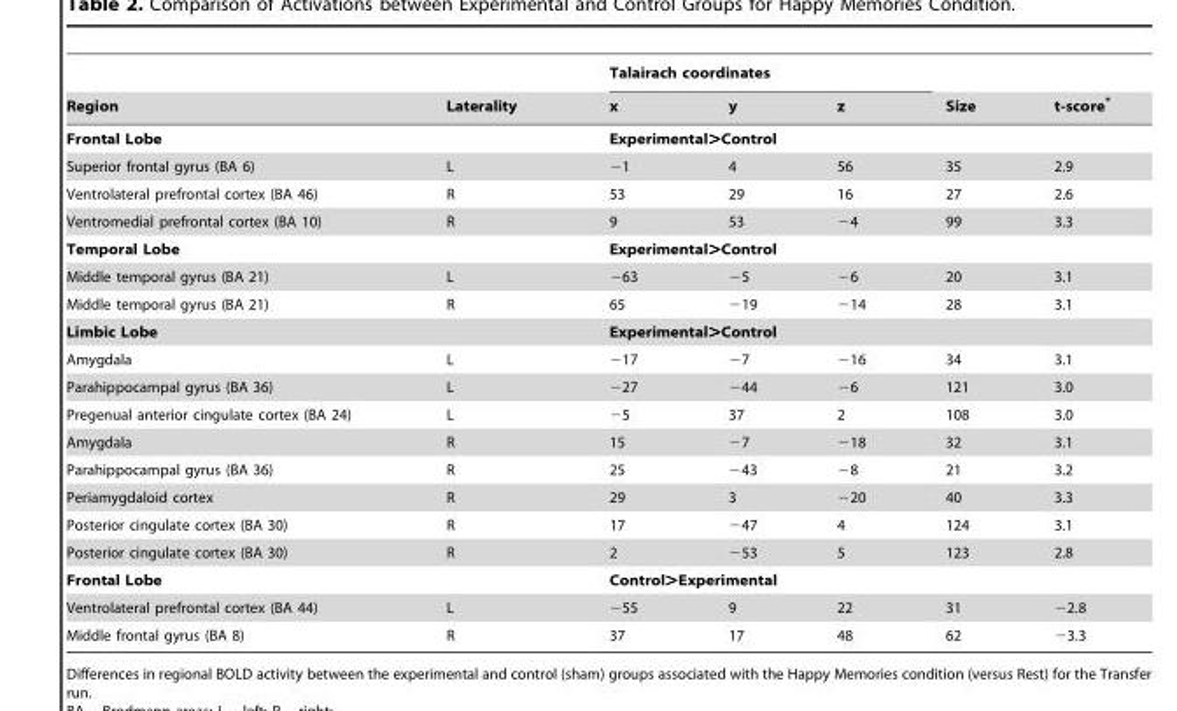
<table><thead><tr><td rowspan="2">Region</td><td rowspan="2">Laterality</td><td colspan="3">Talairach coordinates</td><td rowspan="2">Size</td><td rowspan="2">t-score*</td></tr><tr><td>x</td><td>y</td><td>z</td></tr></thead><tbody><tr><td>Frontal Lobe</td><td></td><td colspan="5">Experimental&gt;Control</td></tr><tr><td>Superior frontal gyrus (BA 6)</td><td>L</td><td>−1</td><td>4</td><td>56</td><td>35</td><td>2.9</td></tr><tr><td>Ventrolateral prefrontal cortex (BA 46)</td><td>R</td><td>53</td><td>29</td><td>16</td><td>27</td><td>2.6</td></tr><tr><td>Ventromedial prefrontal cortex (BA 10)</td><td>R</td><td>9</td><td>53</td><td>−4</td><td>99</td><td>3.3</td></tr><tr><td>Temporal Lobe</td><td></td><td colspan="5">Experimental&gt;Control</td></tr><tr><td>Middle temporal gyrus (BA 21)</td><td>L</td><td>−63</td><td>−5</td><td>−6</td><td>20</td><td>3.1</td></tr><tr><td>Middle temporal gyrus (BA 21)</td><td>R</td><td>65</td><td>−19</td><td>−14</td><td>28</td><td>3.1</td></tr><tr><td>Limbic Lobe</td><td></td><td colspan="5">Experimental&gt;Control</td></tr><tr><td>Amygdala</td><td>L</td><td>−17</td><td>−7</td><td>−16</td><td>34</td><td>3.1</td></tr><tr><td>Parahippocampal gyrus (BA 36)</td><td>L</td><td>−27</td><td>−44</td><td>−6</td><td>121</td><td>3.0</td></tr><tr><td>Pregenual anterior cingulate cortex (BA 24)</td><td>L</td><td>−5</td><td>37</td><td>2</td><td>108</td><td>3.0</td></tr><tr><td>Amygdala</td><td>R</td><td>15</td><td>−7</td><td>−18</td><td>32</td><td>3.1</td></tr><tr><td>Parahippocampal gyrus (BA 36)</td><td>R</td><td>25</td><td>−43</td><td>−8</td><td>21</td><td>3.2</td></tr><tr><td>Periamygdaloid cortex</td><td>R</td><td>29</td><td>3</td><td>−20</td><td>40</td><td>3.3</td></tr><tr><td>Posterior cingulate cortex (BA 30)</td><td>R</td><td>17</td><td>−47</td><td>4</td><td>124</td><td>3.1</td></tr><tr><td>Posterior cingulate cortex (BA 30)</td><td>R</td><td>2</td><td>−53</td><td>5</td><td>123</td><td>2.8</td></tr><tr><td>Frontal Lobe</td><td></td><td colspan="5">Control&gt;Experimental</td></tr><tr><td>Ventrolateral prefrontal cortex (BA 44)</td><td>L</td><td>−55</td><td>9</td><td>22</td><td>31</td><td>−2.8</td></tr><tr><td>Middle frontal gyrus (BA 8)</td><td>R</td><td>37</td><td>17</td><td>48</td><td>62</td><td>−3.3</td></tr></tbody></table>